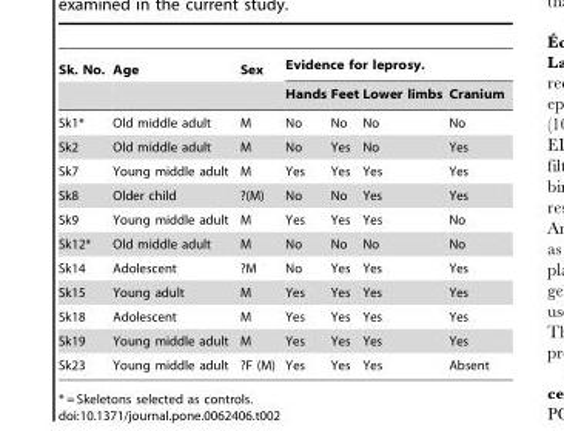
<table><thead><tr><td rowspan="2">Sk. No.</td><td rowspan="2">Age</td><td rowspan="2">Sex</td><td colspan="4">Evidence for leprosy.</td></tr><tr><td>Hands</td><td>Feet</td><td>Lower limbs</td><td>Cranium</td></tr></thead><tbody><tr><td>Sk1*</td><td>Old middle adult</td><td>M</td><td>No</td><td>No</td><td>No</td><td>No</td></tr><tr><td>Sk2</td><td>Old middle adult</td><td>M</td><td>No</td><td>Yes</td><td>No</td><td>Yes</td></tr><tr><td>Sk7</td><td>Young middle adult</td><td>M</td><td>Yes</td><td>Yes</td><td>Yes</td><td>Yes</td></tr><tr><td>Sk8</td><td>Older child</td><td>?(M)</td><td>No</td><td>No</td><td>Yes</td><td>Yes</td></tr><tr><td>Sk9</td><td>Young middle adult</td><td>M</td><td>Yes</td><td>Yes</td><td>Yes</td><td>No</td></tr><tr><td>Sk12*</td><td>Old middle adult</td><td>M</td><td>No</td><td>No</td><td>No</td><td>No</td></tr><tr><td>Sk14</td><td>Adolescent</td><td>?M</td><td>No</td><td>Yes</td><td>Yes</td><td>Yes</td></tr><tr><td>Sk15</td><td>Young adult</td><td>M</td><td>Yes</td><td>Yes</td><td>Yes</td><td>Yes</td></tr><tr><td>Sk18</td><td>Adolescent</td><td>M</td><td>Yes</td><td>Yes</td><td>Yes</td><td>Yes</td></tr><tr><td>Sk19</td><td>Young middle adult</td><td>M</td><td>Yes</td><td>Yes</td><td>Yes</td><td>Yes</td></tr><tr><td>Sk23</td><td>Young middle adult</td><td>?F (M)</td><td>Yes</td><td>Yes</td><td>Yes</td><td>Absent</td></tr></tbody></table>